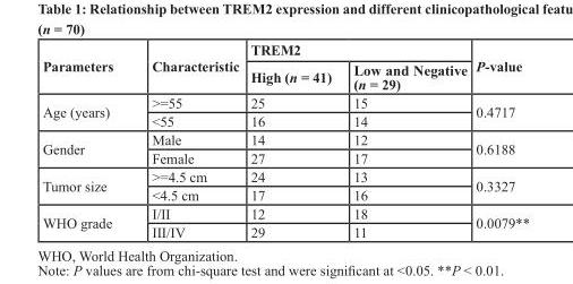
<table><thead><tr><td rowspan="2">Parameters</td><td rowspan="2">Characteristic</td><td colspan="2">TREM2</td><td rowspan="2">P-value</td></tr><tr><td>High (n = 41)</td><td>Low and Negative (n = 29)</td></tr></thead><tbody><tr><td rowspan="2">Age (years)</td><td>&gt;=55</td><td>25</td><td>15</td><td rowspan="2">0.4717</td></tr><tr><td>&lt;55</td><td>16</td><td>14</td></tr><tr><td rowspan="2">Gender</td><td>Male</td><td>14</td><td>12</td><td rowspan="2">0.6188</td></tr><tr><td>Female</td><td>27</td><td>17</td></tr><tr><td rowspan="2">Tumor size</td><td>&gt;=4.5 cm</td><td>24</td><td>13</td><td rowspan="2">0.3327</td></tr><tr><td>&lt;4.5 cm</td><td>17</td><td>16</td></tr><tr><td rowspan="2">WHO grade</td><td>I/II</td><td>12</td><td>18</td><td rowspan="2">0.0079**</td></tr><tr><td>III/IV</td><td>29</td><td>11</td></tr></tbody></table>